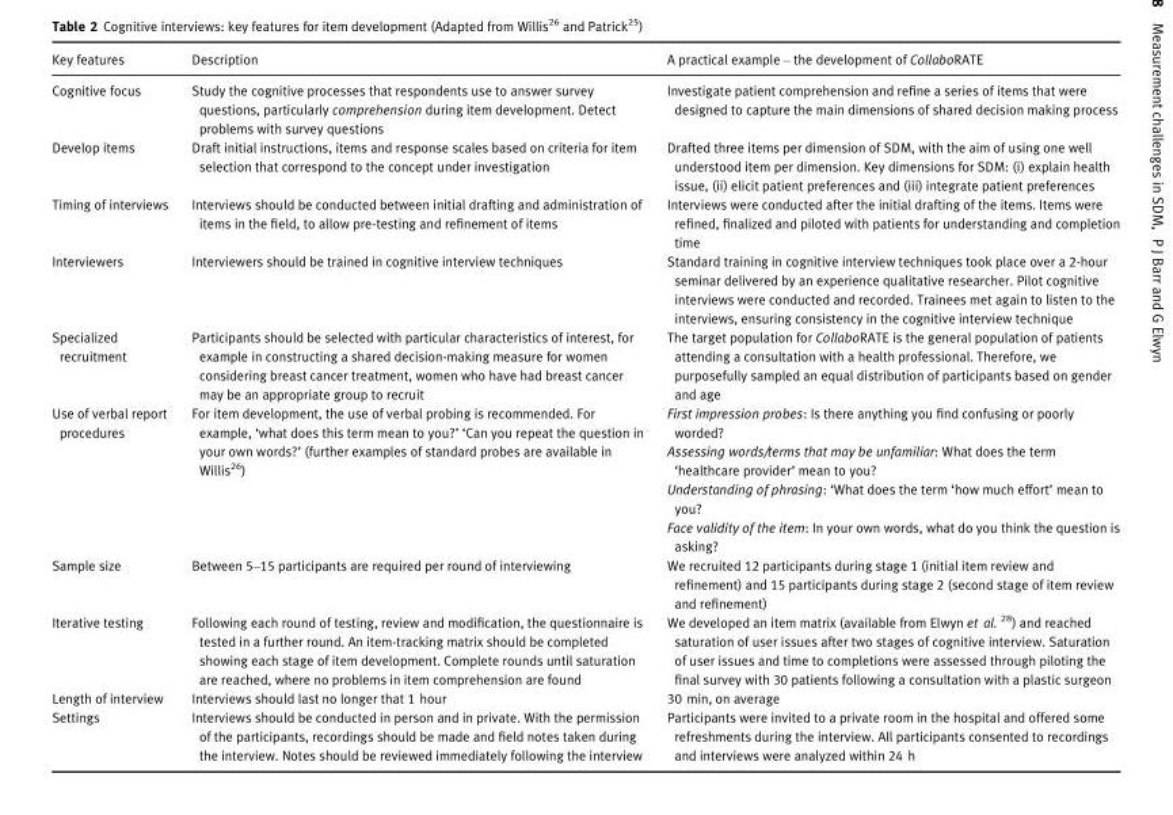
<table><thead><tr><td>Key features</td><td>Description</td><td>A practical example – the development of CollaboRATE</td></tr></thead><tbody><tr><td>Cognitive focus</td><td>Study the cognitive processes that respondents use to answer survey questions, particularly comprehension during item development. Detect problems with survey questions</td><td>Investigate patient comprehension and refine a series of items that were designed to capture the main dimensions of shared decision making process</td></tr><tr><td>Develop items</td><td>Draft initial instructions, items and response scales based on criteria for item selection that correspond to the concept under investigation</td><td>Drafted three items per dimension of SDM, with the aim of using one well understood item per dimension. Key dimensions for SDM: (i) explain health issue, (ii) elicit patient preferences and (iii) integrate patient preferences</td></tr><tr><td>Timing of interviews</td><td>Interviews should be conducted between initial drafting and administration of items in the field, to allow pre-testing and refinement of items</td><td>Interviews were conducted after the initial drafting of the items. Items were refined, finalized and piloted with patients for understanding and completion time</td></tr><tr><td>Interviewers</td><td>Interviewers should be trained in cognitive interview techniques</td><td>Standard training in cognitive interview techniques took place over a 2-hour seminar delivered by an experience qualitative researcher. Pilot cognitive interviews were conducted and recorded. Trainees met again to listen to the interviews, ensuring consistency in the cognitive interview technique</td></tr><tr><td>Specialized recruitment</td><td>Participants should be selected with particular characteristics of interest, for example in constructing a shared decision-making measure for women considering breast cancer treatment, women who have had breast cancer may be an appropriate group to recruit</td><td>The target population for CollaboRATE is the general population of patients attending a consultation with a health professional. Therefore, we purposefully sampled an equal distribution of participants based on gender and age</td></tr><tr><td rowspan="4">Use of verbal report procedures</td><td rowspan="4">For item development, the use of verbal probing is recommended. For example, ‘what does this term mean to you?’ ‘Can you repeat the question in your own words?’ (further examples of standard probes are available in Willis<sup>26</sup>)</td><td>First impression probes: Is there anything you find confusing or poorly worded?</td></tr><tr><td>Assessing words/terms that may be unfamiliar: What does the term ‘healthcare provider’ mean to you?</td></tr><tr><td>Understanding of phrasing: ‘What does the term ‘how much effort’ mean to you?</td></tr><tr><td>Face validity of the item: In your own words, what do you think the question is asking?</td></tr><tr><td>Sample size</td><td>Between 5–15 participants are required per round of interviewing</td><td>We recruited 12 participants during stage 1 (initial item review and refinement) and 15 participants during stage 2 (second stage of item review and refinement)</td></tr><tr><td>Iterative testing</td><td>Following each round of testing, review and modification, the questionnaire is tested in a further round. An item-tracking matrix should be completed showing each stage of item development. Complete rounds until saturation are reached, where no problems in item comprehension are found</td><td>We developed an item matrix (available from Elwyn et al. 28) and reached saturation of user issues after two stages of cognitive interview. Saturation of user issues and time to completions were assessed through piloting the final survey with 30 patients following a consultation with a plastic surgeon</td></tr><tr><td>Length of interview</td><td>Interviews should last no longer that 1 hour</td><td>30 min, on average</td></tr><tr><td>Settings</td><td>Interviews should be conducted in person and in private. With the permission of the participants, recordings should be made and field notes taken during the interview. Notes should be reviewed immediately following the interview</td><td>Participants were invited to a private room in the hospital and offered some refreshments during the interview. All participants consented to recordings and interviews were analyzed within 24 h</td></tr></tbody></table>